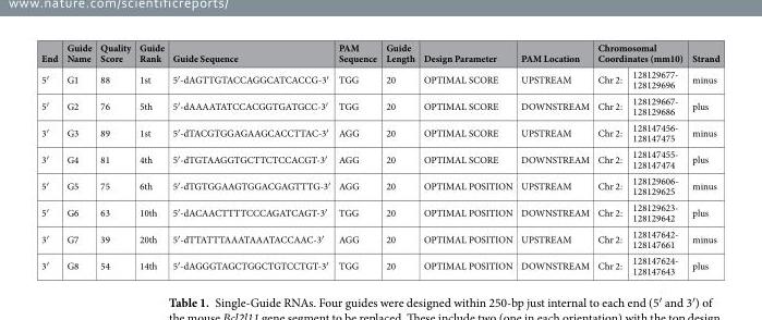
<table><thead><tr><td rowspan="2">End 5′</td><td rowspan="2">Guide Name G1</td><td rowspan="2">Quality Score 88</td><td rowspan="2">Guide Rank 1st</td><td rowspan="2">Guide Sequence 5′-dAGTTGTACCAGGCATCACCG-3′</td><td rowspan="2">PAM Sequence TGG</td><td rowspan="2">Guide Length 20</td><td rowspan="2">Design Parameter OPTIMAL SCORE</td><td rowspan="2">PAM Location UPSTREAM</td><td colspan="2">Chromosomal Coordinates (mm10)</td><td rowspan="2">Strand minus</td></tr><tr><td>Chr 2:</td><td>128129677- 128129696</td></tr></thead><tbody><tr><td>5′</td><td>G2</td><td>76</td><td>5th</td><td>5′-dAAAATATCCACGGTGATGCC-3′</td><td>TGG</td><td>20</td><td>OPTIMAL SCORE</td><td>DOWNSTREAM</td><td>Chr 2:</td><td>128129667- 128129686</td><td>plus</td></tr><tr><td>3′</td><td>G3</td><td>89</td><td>1st</td><td>5′-dTACGTGGAGAAGCACCTTAC-3′</td><td>AGG</td><td>20</td><td>OPTIMAL SCORE</td><td>UPSTREAM</td><td>Chr 2:</td><td>128147456- 128147475</td><td>minus</td></tr><tr><td>3′</td><td>G4</td><td>81</td><td>4th</td><td>5′-dTGTAAGGTGCTTCTCCACGT-3′</td><td>AGG</td><td>20</td><td>OPTIMAL SCORE</td><td>DOWNSTREAM</td><td>Chr 2:</td><td>128147455- 128147474</td><td>plus</td></tr><tr><td>5′</td><td>G5</td><td>75</td><td>6th</td><td>5′-dTGTGGAAGTGGACGAGTTTG-3′</td><td>AGG</td><td>20</td><td>OPTIMAL POSITION</td><td>UPSTREAM</td><td>Chr 2:</td><td>128129606- 128129625</td><td>minus</td></tr><tr><td>5′</td><td>G6</td><td>63</td><td>10th</td><td>5′-dACAACTTTTCCCAGATCAGT-3′</td><td>TGG</td><td>20</td><td>OPTIMAL POSITION</td><td>DOWNSTREAM</td><td>Chr 2:</td><td>128129623- 128129642</td><td>plus</td></tr><tr><td>3′</td><td>G7</td><td>39</td><td>20th</td><td>5′-dTTATTTAAATAAATACCAAC-3′</td><td>AGG</td><td>20</td><td>OPTIMAL POSITION</td><td>UPSTREAM</td><td>Chr 2:</td><td>128147642- 128147661</td><td>minus</td></tr><tr><td>3′</td><td>G8</td><td>54</td><td>14th</td><td>5′-dAGGGTAGCTGGCTGTCCTGT-3′</td><td>TGG</td><td>20</td><td>OPTIMAL POSITION</td><td>DOWNSTREAM</td><td>Chr 2:</td><td>128147624- 128147643</td><td>plus</td></tr></tbody></table>